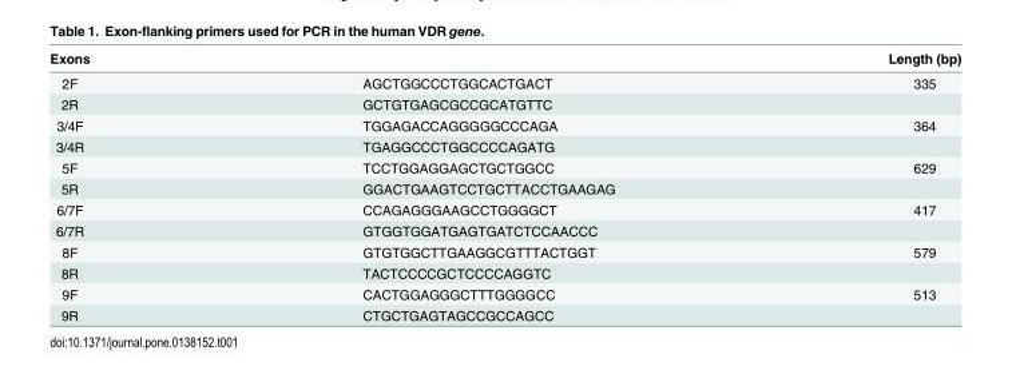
<table><thead><tr><td>Exons</td><td></td><td>Length (bp)</td></tr></thead><tbody><tr><td>2F</td><td>AGCTGGCCCTGGCACTGACT</td><td>335</td></tr><tr><td>2R</td><td>GCTGTGAGCGCCGCATGTTC</td><td></td></tr><tr><td>3/4F</td><td>TGGAGACCAGGGGGCCCAGA</td><td>364</td></tr><tr><td>3/4R</td><td>TGAGGCCCTGGCCCCAGATG</td><td></td></tr><tr><td>5F</td><td>TCCTGGAGGAGCTGCTGGCC</td><td>629</td></tr><tr><td>5R</td><td>GGACTGAAGTCCTGCTTACCTGAAGAG</td><td></td></tr><tr><td>6/7F</td><td>CCAGAGGGAAGCCTGGGGCT</td><td>417</td></tr><tr><td>6/7R</td><td>GTGGTGGATGAGTGATCTCCAACCC</td><td></td></tr><tr><td>8F</td><td>GTGTGGCTTGAAGGCGTTTACTGGT</td><td>579</td></tr><tr><td>8R</td><td>TACTCCCCGCTCCCCAGGTC</td><td></td></tr><tr><td>9F</td><td>CACTGGAGGGCTTTGGGGCC</td><td>513</td></tr><tr><td>9R</td><td>CTGCTGAGTAGCCGCCAGCC</td><td></td></tr></tbody></table>